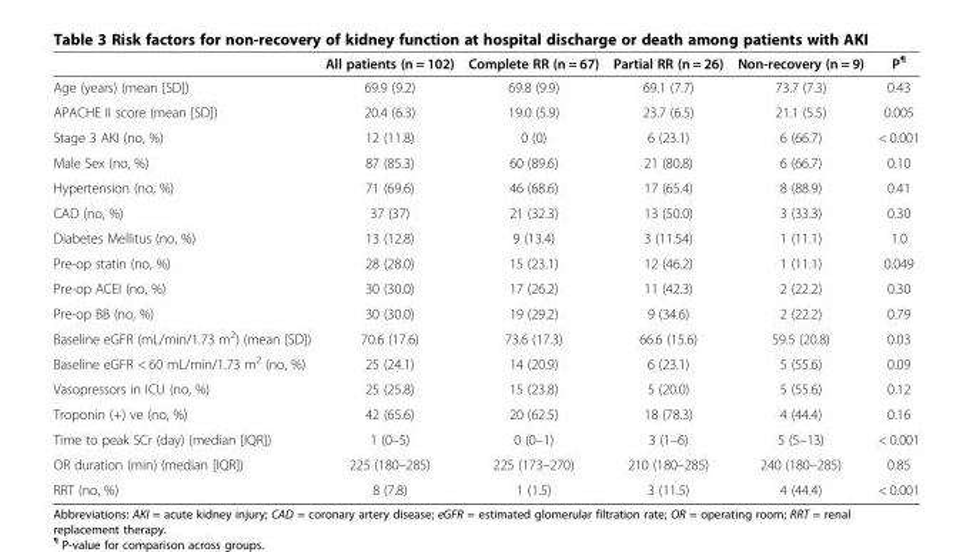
<table><thead><tr><td></td><td>All patients (n = 102)</td><td>Complete RR (n = 67)</td><td>Partial RR (n = 26)</td><td>Non-recovery (n = 9)</td><td>P<sup>¶</sup></td></tr></thead><tbody><tr><td>Age (years) (mean [SD])</td><td>69.9 (9.2)</td><td>69.8 (9.9)</td><td>69.1 (7.7)</td><td>73.7 (7.3)</td><td>0.43</td></tr><tr><td>APACHE II score (mean [SD])</td><td>20.4 (6.3)</td><td>19.0 (5.9)</td><td>23.7 (6.5)</td><td>21.1 (5.5)</td><td>0.005</td></tr><tr><td>Stage 3 AKI (no, %)</td><td>12 (11.8)</td><td>0 (0)</td><td>6 (23.1)</td><td>6 (66.7)</td><td>&lt; 0.001</td></tr><tr><td>Male Sex (no, %)</td><td>87 (85.3)</td><td>60 (89.6)</td><td>21 (80.8)</td><td>6 (66.7)</td><td>0.10</td></tr><tr><td>Hypertension (no, %)</td><td>71 (69.6)</td><td>46 (68.6)</td><td>17 (65.4)</td><td>8 (88.9)</td><td>0.41</td></tr><tr><td>CAD (no, %)</td><td>37 (37)</td><td>21 (32.3)</td><td>13 (50.0)</td><td>3 (33.3)</td><td>0.30</td></tr><tr><td>Diabetes Mellitus (no, %)</td><td>13 (12.8)</td><td>9 (13.4)</td><td>3 (11.54)</td><td>1 (11.1)</td><td>1.0</td></tr><tr><td>Pre-op statin (no, %)</td><td>28 (28.0)</td><td>15 (23.1)</td><td>12 (46.2)</td><td>1 (11.1)</td><td>0.049</td></tr><tr><td>Pre-op ACEI (no, %)</td><td>30 (30.0)</td><td>17 (26.2)</td><td>11 (42.3)</td><td>2 (22.2)</td><td>0.30</td></tr><tr><td>Pre-op BB (no, %)</td><td>30 (30.0)</td><td>19 (29.2)</td><td>9 (34.6)</td><td>2 (22.2)</td><td>0.79</td></tr><tr><td>Baseline eGFR (mL/min/1.73 m<sup>2</sup>) (mean [SD])</td><td>70.6 (17.6)</td><td>73.6 (17.3)</td><td>66.6 (15.6)</td><td>59.5 (20.8)</td><td>0.03</td></tr><tr><td>Baseline eGFR &lt; 60 mL/min/1.73 m<sup>2</sup> (no, %)</td><td>25 (24.1)</td><td>14 (20.9)</td><td>6 (23.1)</td><td>5 (55.6)</td><td>0.09</td></tr><tr><td>Vasopressors in ICU (no, %)</td><td>25 (25.8)</td><td>15 (23.8)</td><td>5 (20.0)</td><td>5 (55.6)</td><td>0.12</td></tr><tr><td>Troponin (+) ve (no, %)</td><td>42 (65.6)</td><td>20 (62.5)</td><td>18 (78.3)</td><td>4 (44.4)</td><td>0.16</td></tr><tr><td>Time to peak SCr (day) (median [IQR])</td><td>1 (0–5)</td><td>0 (0–1)</td><td>3 (1–6)</td><td>5 (5–13)</td><td>&lt; 0.001</td></tr><tr><td>OR duration (min) (median [IQR])</td><td>225 (180–285)</td><td>225 (173–270)</td><td>210 (180–285)</td><td>240 (180–285)</td><td>0.85</td></tr><tr><td>RRT (no, %)</td><td>8 (7.8)</td><td>1 (1.5)</td><td>3 (11.5)</td><td>4 (44.4)</td><td>&lt; 0.001</td></tr></tbody></table>